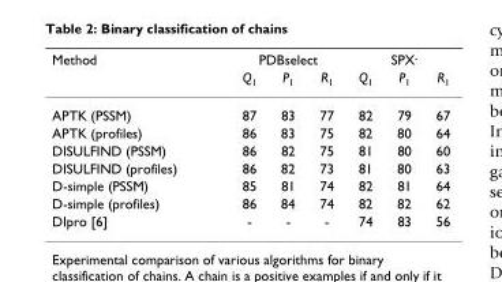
<table><thead><tr><td rowspan="2">Method</td><td colspan="3">PDBselect</td><td colspan="3">SPX<sup>-</sup></td></tr><tr><td>Q<sub>1</sub></td><td>P<sub>1</sub></td><td>R<sub>1</sub></td><td>Q<sub>1</sub></td><td>P<sub>1</sub></td><td>R<sub>1</sub></td></tr></thead><tbody><tr><td>APTK (PSSM)</td><td>87</td><td>83</td><td>77</td><td>82</td><td>79</td><td>67</td></tr><tr><td>APTK (profiles)</td><td>86</td><td>83</td><td>75</td><td>82</td><td>80</td><td>64</td></tr><tr><td>DISULFIND (PSSM)</td><td>86</td><td>82</td><td>75</td><td>81</td><td>80</td><td>60</td></tr><tr><td>DISULFIND (profiles)</td><td>86</td><td>82</td><td>73</td><td>81</td><td>80</td><td>63</td></tr><tr><td>D-simple (PSSM)</td><td>85</td><td>81</td><td>74</td><td>82</td><td>81</td><td>64</td></tr><tr><td>D-simple (profiles)</td><td>86</td><td>84</td><td>74</td><td>82</td><td>82</td><td>62</td></tr><tr><td>DIpro [6]</td><td>-</td><td>-</td><td>-</td><td>74</td><td>83</td><td>56</td></tr></tbody></table>